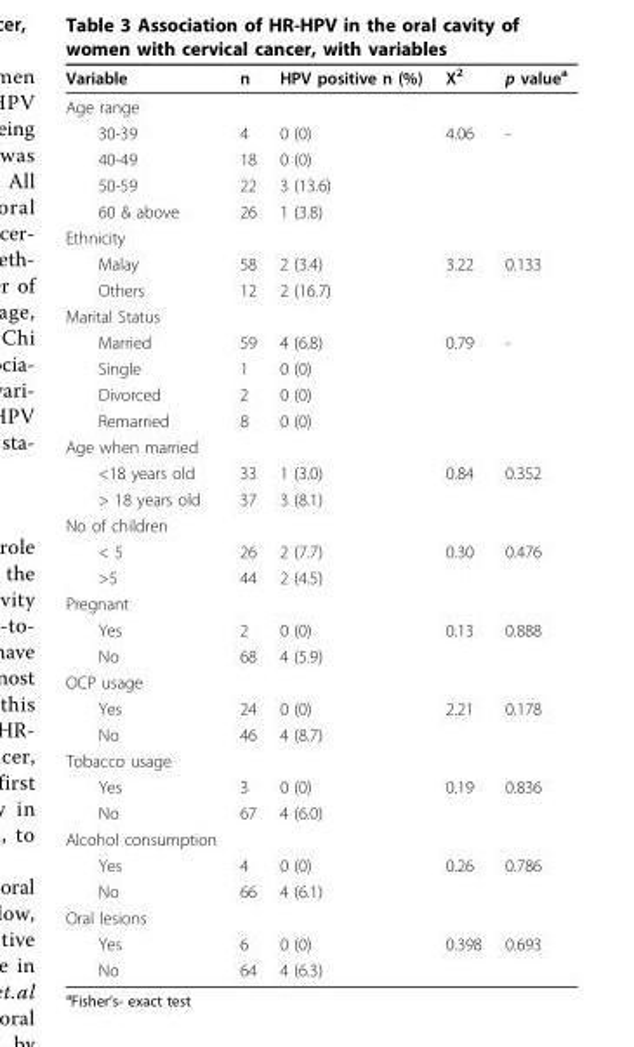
<table><thead><tr><td>Variable</td><td>n</td><td>HPV positive n (%)</td><td>X<sup>2</sup></td><td>p value<sup>a</sup></td></tr></thead><tbody><tr><td colspan="5">Age range</td></tr><tr><td>30-39</td><td>4</td><td>0 (0)</td><td>4.06</td><td>-</td></tr><tr><td>40-49</td><td>18</td><td>0 (0)</td><td></td><td></td></tr><tr><td>50-59</td><td>22</td><td>3 (13.6)</td><td></td><td></td></tr><tr><td>60 &amp; above</td><td>26</td><td>1 (3.8)</td><td></td><td></td></tr><tr><td colspan="5">Ethnicity</td></tr><tr><td>Malay</td><td>58</td><td>2 (3.4)</td><td>3.22</td><td>0.133</td></tr><tr><td>Others</td><td>12</td><td>2 (16.7)</td><td></td><td></td></tr><tr><td colspan="5">Marital Status</td></tr><tr><td>Married</td><td>59</td><td>4 (6.8)</td><td>0.79</td><td>-</td></tr><tr><td>Single</td><td>1</td><td>0 (0)</td><td></td><td></td></tr><tr><td>Divorced</td><td>2</td><td>0 (0)</td><td></td><td></td></tr><tr><td>Remarried</td><td>8</td><td>0 (0)</td><td></td><td></td></tr><tr><td colspan="5">Age when married</td></tr><tr><td>&lt;18 years old</td><td>33</td><td>1 (3.0)</td><td>0.84</td><td>0.352</td></tr><tr><td>&gt; 18 years old</td><td>37</td><td>3 (8.1)</td><td></td><td></td></tr><tr><td colspan="5">No of children</td></tr><tr><td>&lt; 5</td><td>26</td><td>2 (7.7)</td><td>0.30</td><td>0.476</td></tr><tr><td>&gt;5</td><td>44</td><td>2 (4.5)</td><td></td><td></td></tr><tr><td colspan="5">Pregnant</td></tr><tr><td>Yes</td><td>2</td><td>0 (0)</td><td>0.13</td><td>0.888</td></tr><tr><td>No</td><td>68</td><td>4 (5.9)</td><td></td><td></td></tr><tr><td colspan="5">OCP usage</td></tr><tr><td>Yes</td><td>24</td><td>0 (0)</td><td>2.21</td><td>0.178</td></tr><tr><td>No</td><td>46</td><td>4 (8.7)</td><td></td><td></td></tr><tr><td colspan="5">Tobacco usage</td></tr><tr><td>Yes</td><td>3</td><td>0 (0)</td><td>0.19</td><td>0.836</td></tr><tr><td>No</td><td>67</td><td>4 (6.0)</td><td></td><td></td></tr><tr><td colspan="5">Alcohol consumption</td></tr><tr><td>Yes</td><td>4</td><td>0 (0)</td><td>0.26</td><td>0.786</td></tr><tr><td>No</td><td>66</td><td>4 (6.1)</td><td></td><td></td></tr><tr><td colspan="5">Oral lesions</td></tr><tr><td>Yes</td><td>6</td><td>0 (0)</td><td>0.398</td><td>0.693</td></tr><tr><td>No</td><td>64</td><td>4 (6.3)</td><td></td><td></td></tr></tbody></table>